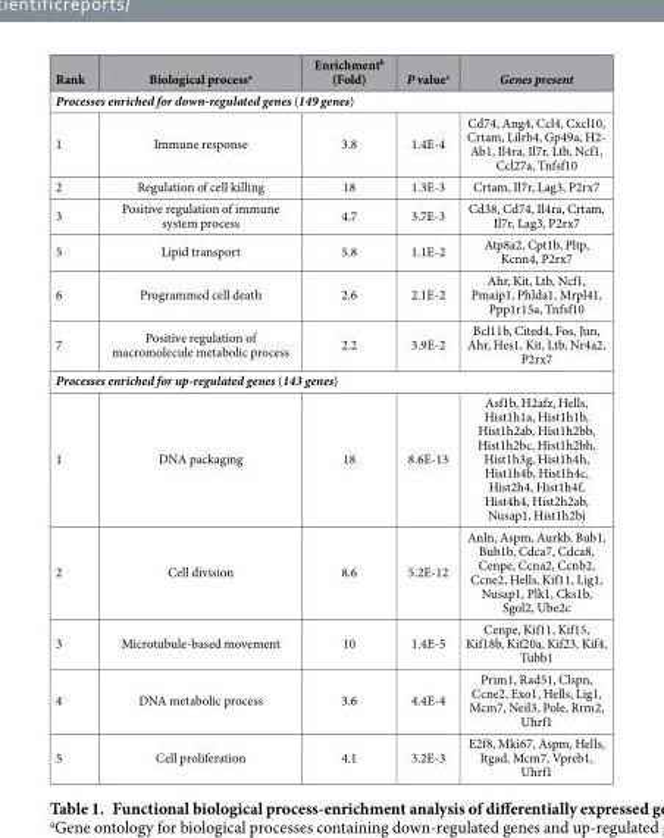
<table><thead><tr><td>Rank</td><td>Biological process<sup>a</sup></td><td>Enrichment<sup>b</sup> (Fold)</td><td>P value<sup>c</sup></td><td>Genes present</td></tr></thead><tbody><tr><td colspan="5">Processes enriched for down-regulated genes (149 genes)</td></tr><tr><td>1</td><td>Immune response</td><td>3.8</td><td>1.4E-4</td><td>Cd74, Ang4, Ccl4, Cxcl10, Crtam, Lilrb4, Gp49a, H2- Ab1, Il4ra, Il7r, Ltb, Ncf1, Ccl27a, Tnfsf10</td></tr><tr><td>2</td><td>Regulation of cell killing</td><td>18</td><td>1.3E-3</td><td>Crtam, Il7r, Lag3, P2rx7</td></tr><tr><td>3</td><td>Positive regulation of immune system process</td><td>4.7</td><td>3.7E-3</td><td>Cd38, Cd74, Il4ra, Crtam, Il7r, Lag3, P2rx7</td></tr><tr><td>5</td><td>Lipid transport</td><td>5.8</td><td>1.1E-2</td><td>Atp8a2, Cpt1b, Pltp, Kcnn4, P2rx7</td></tr><tr><td>6</td><td>Programmed cell death</td><td>2.6</td><td>2.1E-2</td><td>Ahr, Kit, Ltb, Ncf1, Pmaip1, Phlda1, Mrpl41, Ppp1r15a, Tnfsf10</td></tr><tr><td>7</td><td>Positive regulation of macromolecule metabolic process</td><td>2.2</td><td>3.9E-2</td><td>Bcl11b, Cited4, Fos, Jun, Ahr, Hes1, Kit, Ltb, Nr4a2, P2rx7</td></tr><tr><td colspan="5">Processes enriched for up-regulated genes (143 genes)</td></tr><tr><td>1</td><td>DNA packaging</td><td>18</td><td>8.6E-13</td><td>Asf1b, H2afz, Hells, Hist1h1a, Hist1h1b, Hist1h2ab, Hist1h2bb, Hist1h2bc, Hist1h2bh, Hist1h3g, Hist1h4h, Hist1h4b, Hist1h4c, Hist2h4, Hist1h4f, Hist4h4, Hist2h2ab, Nusap1, Hist1h2bj</td></tr><tr><td>2</td><td>Cell division</td><td>8.6</td><td>5.2E-12</td><td>Anln, Aspm, Aurkb, Bub1, Bub1b, Cdca7, Cdca8, Cenpe, Ccna2, Ccnb2, Ccne2, Hells, Kif11, Lig1, Nusap1, Plk1, Cks1b, Sgol2, Ube2c</td></tr><tr><td>3</td><td>Microtubule-based movement</td><td>10</td><td>1.4E-5</td><td>Cenpe, Kif11, Kif15, Kif18b, Kif20a, Kif23, Kif4, Tubb1</td></tr><tr><td>4</td><td>DNA metabolic process</td><td>3.6</td><td>4.4E-4</td><td>Prim1, Rad51, Clspn, Ccne2, Exo1, Hells, Lig1, Mcm7, Neil3, Pole, Rrm2, Uhrf1</td></tr><tr><td>5</td><td>Cell proliferation</td><td>4.1</td><td>3.2E-3</td><td>E2f8, Mki67, Aspm, Hells, Itgad, Mcm7, Vpreb1, Uhrf1</td></tr></tbody></table>